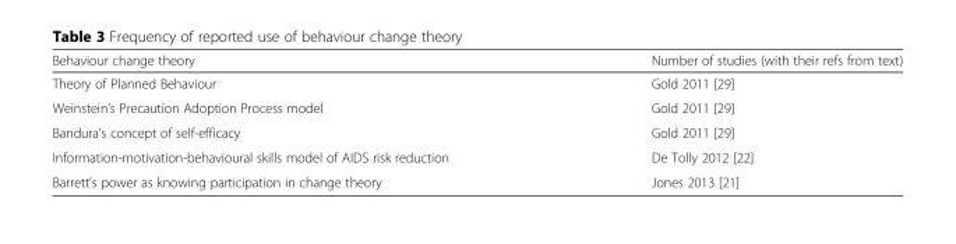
<table><thead><tr><td>Behaviour change theory</td><td>Number of studies (with their refs from text)</td></tr></thead><tbody><tr><td>Theory of Planned Behaviour</td><td>Gold 2011 [29]</td></tr><tr><td>Weinstein’s Precaution Adoption Process model</td><td>Gold 2011 [29]</td></tr><tr><td>Bandura’s concept of self-efficacy</td><td>Gold 2011 [29]</td></tr><tr><td>Information-motivation-behavioural skills model of AIDS risk reduction</td><td>De Tolly 2012 [22]</td></tr><tr><td>Barrett’s power as knowing participation in change theory</td><td>Jones 2013 [21]</td></tr></tbody></table>